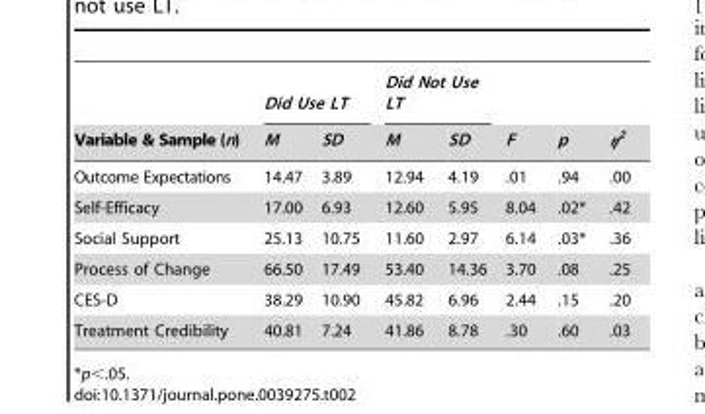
<table><thead><tr><td rowspan="2">Variable &amp; Sample (n)</td><td colspan="2">Did Use LT</td><td colspan="2">Did Not Use LT</td><td rowspan="2">F</td><td rowspan="2">p</td><td rowspan="2">η<sup>2</sup></td></tr><tr><td>M</td><td>SD</td><td>M</td><td>SD</td></tr></thead><tbody><tr><td>Outcome Expectations</td><td>14.47</td><td>3.89</td><td>12.94</td><td>4.19</td><td>.01</td><td>.94</td><td>.00</td></tr><tr><td>Self-Efficacy</td><td>17.00</td><td>6.93</td><td>12.60</td><td>5.95</td><td>8.04</td><td>.02*</td><td>.42</td></tr><tr><td>Social Support</td><td>25.13</td><td>10.75</td><td>11.60</td><td>2.97</td><td>6.14</td><td>.03*</td><td>.36</td></tr><tr><td>Process of Change</td><td>66.50</td><td>17.49</td><td>53.40</td><td>14.36</td><td>3.70</td><td>.08</td><td>.25</td></tr><tr><td>CES-D</td><td>38.29</td><td>10.90</td><td>45.82</td><td>6.96</td><td>2.44</td><td>.15</td><td>.20</td></tr><tr><td>Treatment Credibility</td><td>40.81</td><td>7.24</td><td>41.86</td><td>8.78</td><td>.30</td><td>.60</td><td>.03</td></tr></tbody></table>